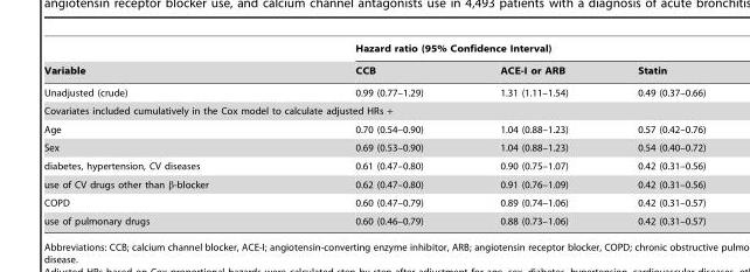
<table><thead><tr><td rowspan="2">Variable</td><td colspan="3">Hazard ratio (95% Confidence Interval)</td></tr><tr><td>CCB</td><td>ACE-I or ARB</td><td>Statin</td></tr></thead><tbody><tr><td>Unadjusted (crude)</td><td>0.99 (0.77–1.29)</td><td>1.31 (1.11–1.54)</td><td>0.49 (0.37–0.66)</td></tr><tr><td colspan="4">Covariates included cumulatively in the Cox model to calculate adjusted HRs +</td></tr><tr><td>Age</td><td>0.70 (0.54–0.90)</td><td>1.04 (0.88–1.23)</td><td>0.57 (0.42–0.76)</td></tr><tr><td>Sex</td><td>0.69 (0.53–0.90)</td><td>1.04 (0.88–1.23)</td><td>0.54 (0.40–0.72)</td></tr><tr><td>diabetes, hypertension, CV diseases</td><td>0.61 (0.47–0.80)</td><td>0.90 (0.75–1.07)</td><td>0.42 (0.31–0.56)</td></tr><tr><td>use of CV drugs other than β-blocker</td><td>0.62 (0.47–0.80)</td><td>0.91 (0.76–1.09)</td><td>0.42 (0.31–0.56)</td></tr><tr><td>COPD</td><td>0.60 (0.47–0.79)</td><td>0.89 (0.74–1.06)</td><td>0.42 (0.31–0.57)</td></tr><tr><td>use of pulmonary drugs</td><td>0.60 (0.46–0.79)</td><td>0.88 (0.73–1.06)</td><td>0.42 (0.31–0.57)</td></tr></tbody></table>